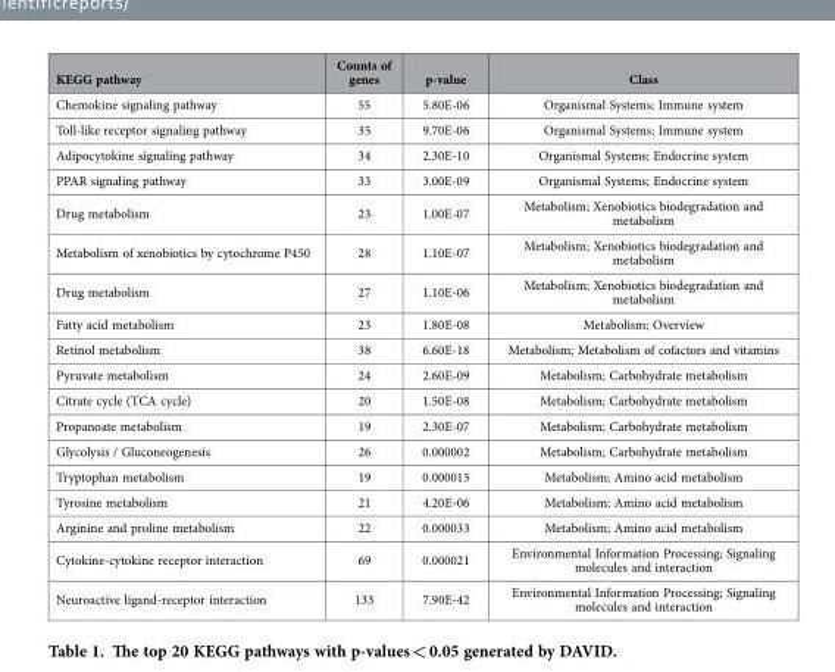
<table><thead><tr><td>KEGG pathway</td><td>Counts of genes</td><td>p-value</td><td>Class</td></tr></thead><tbody><tr><td>Chemokine signaling pathway</td><td>55</td><td>5.80E-06</td><td>Organismal Systems; Immune system</td></tr><tr><td>Toll-like receptor signaling pathway</td><td>35</td><td>9.70E-06</td><td>Organismal Systems; Immune system</td></tr><tr><td>Adipocytokine signaling pathway</td><td>34</td><td>2.30E-10</td><td>Organismal Systems; Endocrine system</td></tr><tr><td>PPAR signaling pathway</td><td>33</td><td>3.00E-09</td><td>Organismal Systems; Endocrine system</td></tr><tr><td>Drug metabolism</td><td>23</td><td>1.00E-07</td><td>Metabolism; Xenobiotics biodegradation and metabolism</td></tr><tr><td>Metabolism of xenobiotics by cytochrome P450</td><td>28</td><td>1.10E-07</td><td>Metabolism; Xenobiotics biodegradation and metabolism</td></tr><tr><td>Drug metabolism</td><td>27</td><td>1.10E-06</td><td>Metabolism; Xenobiotics biodegradation and metabolism</td></tr><tr><td>Fatty acid metabolism</td><td>23</td><td>1.80E-08</td><td>Metabolism; Overview</td></tr><tr><td>Retinol metabolism</td><td>38</td><td>6.60E-18</td><td>Metabolism; Metabolism of cofactors and vitamins</td></tr><tr><td>Pyruvate metabolism</td><td>24</td><td>2.60E-09</td><td>Metabolism; Carbohydrate metabolism</td></tr><tr><td>Citrate cycle (TCA cycle)</td><td>20</td><td>1.50E-08</td><td>Metabolism; Carbohydrate metabolism</td></tr><tr><td>Propanoate metabolism</td><td>19</td><td>2.30E-07</td><td>Metabolism; Carbohydrate metabolism</td></tr><tr><td>Glycolysis / Gluconeogenesis</td><td>26</td><td>0.000002</td><td>Metabolism; Carbohydrate metabolism</td></tr><tr><td>Tryptophan metabolism</td><td>19</td><td>0.000015</td><td>Metabolism; Amino acid metabolism</td></tr><tr><td>Tyrosine metabolism</td><td>21</td><td>4.20E-06</td><td>Metabolism; Amino acid metabolism</td></tr><tr><td>Arginine and proline metabolism</td><td>22</td><td>0.000033</td><td>Metabolism; Amino acid metabolism</td></tr><tr><td>Cytokine-cytokine receptor interaction</td><td>69</td><td>0.000021</td><td>Environmental Information Processing; Signaling molecules and interaction</td></tr><tr><td>Neuroactive ligand-receptor interaction</td><td>133</td><td>7.90E-42</td><td>Environmental Information Processing; Signaling molecules and interaction</td></tr></tbody></table>